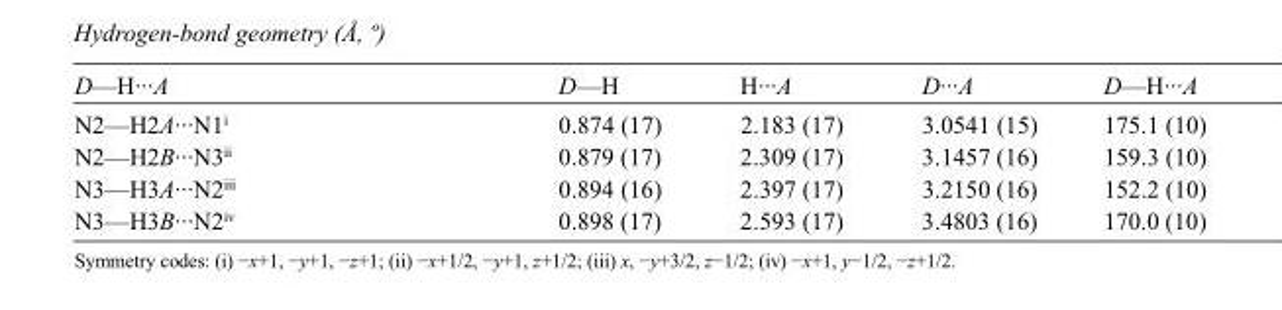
<table><tbody><tr><td>D—H···A</td><td>D—H</td><td>H···A</td><td>D···A</td><td>D—H···A</td></tr><tr><td>N2—H2A···N1<sup>i</sup></td><td>0.874 (17)</td><td>2.183 (17)</td><td>3.0541 (15)</td><td>175.1 (10)</td></tr><tr><td>N2—H2B···N3<sup>ii</sup></td><td>0.879 (17)</td><td>2.309 (17)</td><td>3.1457 (16)</td><td>159.3 (10)</td></tr><tr><td>N3—H3A···N2<sup>iii</sup></td><td>0.894 (16)</td><td>2.397 (17)</td><td>3.2150 (16)</td><td>152.2 (10)</td></tr><tr><td>N3—H3B···N2<sup>iv</sup></td><td>0.898 (17)</td><td>2.593 (17)</td><td>3.4803 (16)</td><td>170.0 (10)</td></tr></tbody></table>